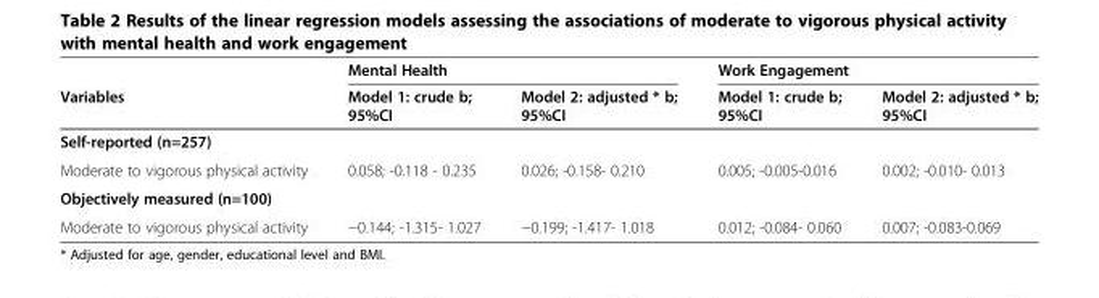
<table><thead><tr><td rowspan="2">Variables</td><td colspan="2">Mental Health</td><td colspan="2">Work Engagement</td></tr><tr><td>Model 1: crude b; 95%CI</td><td>Model 2: adjusted * b; 95%CI</td><td>Model 1: crude b; 95%CI</td><td>Model 2: adjusted * b; 95%CI</td></tr></thead><tbody><tr><td colspan="5">Self-reported (n=257)</td></tr><tr><td>Moderate to vigorous physical activity</td><td>0.058; -0.118 - 0.235</td><td>0.026; -0.158- 0.210</td><td>0.005; -0.005-0.016</td><td>0.002; -0.010- 0.013</td></tr><tr><td colspan="5">Objectively measured (n=100)</td></tr><tr><td>Moderate to vigorous physical activity</td><td>−0.144; -1.315- 1.027</td><td>−0.199; -1.417- 1.018</td><td>0.012; -0.084- 0.060</td><td>0.007; -0.083-0.069</td></tr></tbody></table>